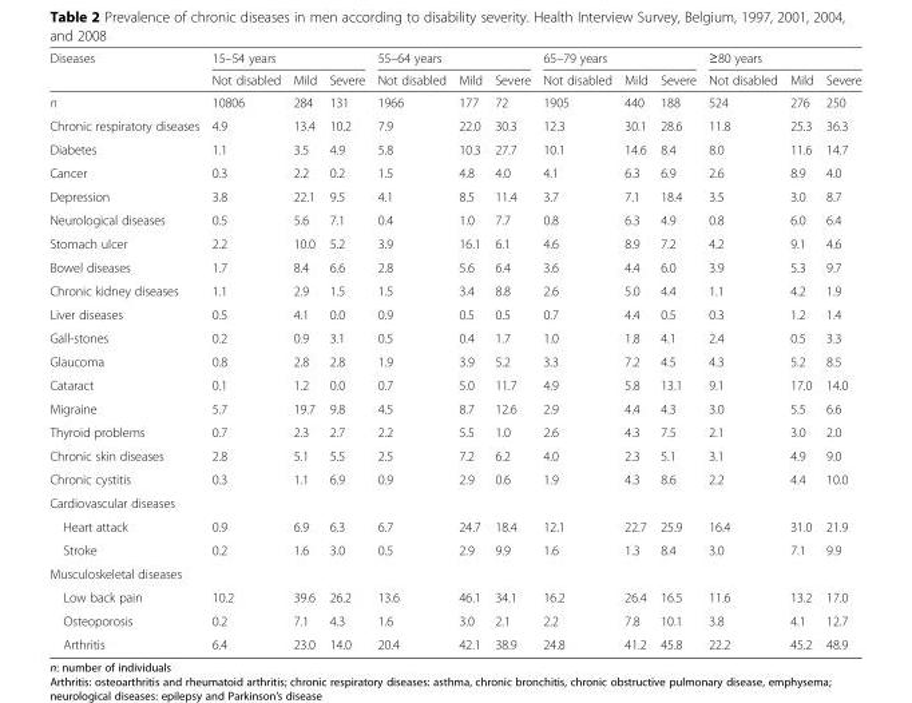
<table><thead><tr><td rowspan="2">Diseases</td><td colspan="3">15–54 years</td><td colspan="3">55–64 years</td><td colspan="3">65–79 years</td><td colspan="3">≥80 years</td></tr><tr><td>Not disabled</td><td>Mild</td><td>Severe</td><td>Not disabled</td><td>Mild</td><td>Severe</td><td>Not disabled</td><td>Mild</td><td>Severe</td><td>Not disabled</td><td>Mild</td><td>Severe</td></tr></thead><tbody><tr><td>n</td><td>10806</td><td>284</td><td>131</td><td>1966</td><td>177</td><td>72</td><td>1905</td><td>440</td><td>188</td><td>524</td><td>276</td><td>250</td></tr><tr><td>Chronic respiratory diseases</td><td>4.9</td><td>13.4</td><td>10.2</td><td>7.9</td><td>22.0</td><td>30.3</td><td>12.3</td><td>30.1</td><td>28.6</td><td>11.8</td><td>25.3</td><td>36.3</td></tr><tr><td>Diabetes</td><td>1.1</td><td>3.5</td><td>4.9</td><td>5.8</td><td>10.3</td><td>27.7</td><td>10.1</td><td>14.6</td><td>8.4</td><td>8.0</td><td>11.6</td><td>14.7</td></tr><tr><td>Cancer</td><td>0.3</td><td>2.2</td><td>0.2</td><td>1.5</td><td>4.8</td><td>4.0</td><td>4.1</td><td>6.3</td><td>6.9</td><td>2.6</td><td>8.9</td><td>4.0</td></tr><tr><td>Depression</td><td>3.8</td><td>22.1</td><td>9.5</td><td>4.1</td><td>8.5</td><td>11.4</td><td>3.7</td><td>7.1</td><td>18.4</td><td>3.5</td><td>3.0</td><td>8.7</td></tr><tr><td>Neurological diseases</td><td>0.5</td><td>5.6</td><td>7.1</td><td>0.4</td><td>1.0</td><td>7.7</td><td>0.8</td><td>6.3</td><td>4.9</td><td>0.8</td><td>6.0</td><td>6.4</td></tr><tr><td>Stomach ulcer</td><td>2.2</td><td>10.0</td><td>5.2</td><td>3.9</td><td>16.1</td><td>6.1</td><td>4.6</td><td>8.9</td><td>7.2</td><td>4.2</td><td>9.1</td><td>4.6</td></tr><tr><td>Bowel diseases</td><td>1.7</td><td>8.4</td><td>6.6</td><td>2.8</td><td>5.6</td><td>6.4</td><td>3.6</td><td>4.4</td><td>6.0</td><td>3.9</td><td>5.3</td><td>9.7</td></tr><tr><td>Chronic kidney diseases</td><td>1.1</td><td>2.9</td><td>1.5</td><td>1.5</td><td>3.4</td><td>8.8</td><td>2.6</td><td>5.0</td><td>4.4</td><td>1.1</td><td>4.2</td><td>1.9</td></tr><tr><td>Liver diseases</td><td>0.5</td><td>4.1</td><td>0.0</td><td>0.9</td><td>0.5</td><td>0.5</td><td>0.7</td><td>4.4</td><td>0.5</td><td>0.3</td><td>1.2</td><td>1.4</td></tr><tr><td>Gall-stones</td><td>0.2</td><td>0.9</td><td>3.1</td><td>0.5</td><td>0.4</td><td>1.7</td><td>1.0</td><td>1.8</td><td>4.1</td><td>2.4</td><td>0.5</td><td>3.3</td></tr><tr><td>Glaucoma</td><td>0.8</td><td>2.8</td><td>2.8</td><td>1.9</td><td>3.9</td><td>5.2</td><td>3.3</td><td>7.2</td><td>4.5</td><td>4.3</td><td>5.2</td><td>8.5</td></tr><tr><td>Cataract</td><td>0.1</td><td>1.2</td><td>0.0</td><td>0.7</td><td>5.0</td><td>11.7</td><td>4.9</td><td>5.8</td><td>13.1</td><td>9.1</td><td>17.0</td><td>14.0</td></tr><tr><td>Migraine</td><td>5.7</td><td>19.7</td><td>9.8</td><td>4.5</td><td>8.7</td><td>12.6</td><td>2.9</td><td>4.4</td><td>4.3</td><td>3.0</td><td>5.5</td><td>6.6</td></tr><tr><td>Thyroid problems</td><td>0.7</td><td>2.3</td><td>2.7</td><td>2.2</td><td>5.5</td><td>1.0</td><td>2.6</td><td>4.3</td><td>7.5</td><td>2.1</td><td>3.0</td><td>2.0</td></tr><tr><td>Chronic skin diseases</td><td>2.8</td><td>5.1</td><td>5.5</td><td>2.5</td><td>7.2</td><td>6.2</td><td>4.0</td><td>2.3</td><td>5.1</td><td>3.1</td><td>4.9</td><td>9.0</td></tr><tr><td>Chronic cystitis</td><td>0.3</td><td>1.1</td><td>6.9</td><td>0.9</td><td>2.9</td><td>0.6</td><td>1.9</td><td>4.3</td><td>8.6</td><td>2.2</td><td>4.4</td><td>10.0</td></tr><tr><td colspan="13">Cardiovascular diseases</td></tr><tr><td>Heart attack</td><td>0.9</td><td>6.9</td><td>6.3</td><td>6.7</td><td>24.7</td><td>18.4</td><td>12.1</td><td>22.7</td><td>25.9</td><td>16.4</td><td>31.0</td><td>21.9</td></tr><tr><td>Stroke</td><td>0.2</td><td>1.6</td><td>3.0</td><td>0.5</td><td>2.9</td><td>9.9</td><td>1.6</td><td>1.3</td><td>8.4</td><td>3.0</td><td>7.1</td><td>9.9</td></tr><tr><td colspan="13">Musculoskeletal diseases</td></tr><tr><td>Low back pain</td><td>10.2</td><td>39.6</td><td>26.2</td><td>13.6</td><td>46.1</td><td>34.1</td><td>16.2</td><td>26.4</td><td>16.5</td><td>11.6</td><td>13.2</td><td>17.0</td></tr><tr><td>Osteoporosis</td><td>0.2</td><td>7.1</td><td>4.3</td><td>1.6</td><td>3.0</td><td>2.1</td><td>2.2</td><td>7.8</td><td>10.1</td><td>3.8</td><td>4.1</td><td>12.7</td></tr><tr><td>Arthritis</td><td>6.4</td><td>23.0</td><td>14.0</td><td>20.4</td><td>42.1</td><td>38.9</td><td>24.8</td><td>41.2</td><td>45.8</td><td>22.2</td><td>45.2</td><td>48.9</td></tr></tbody></table>